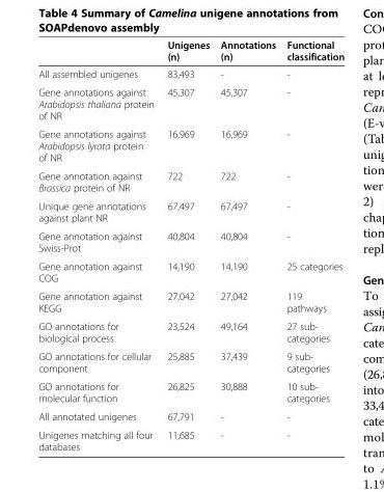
<table><thead><tr><td></td><td>Unigenes (n)</td><td>Annotations (n)</td><td>Functional classification</td></tr></thead><tbody><tr><td>All assembled unigenes</td><td>83,493</td><td>-</td><td>-</td></tr><tr><td>Gene annotations against Arabidopsis thaliana protein of NR</td><td>45,307</td><td>45,307</td><td>-</td></tr><tr><td>Gene annotations against Arabidopsis lyrata protein of NR</td><td>16,969</td><td>16,969</td><td>-</td></tr><tr><td>Gene annotation against Brassica protein of NR</td><td>722</td><td>722</td><td>-</td></tr><tr><td>Unique gene annotations against plant NR</td><td>67,497</td><td>67,497</td><td>-</td></tr><tr><td>Gene annotation against Swiss-Prot</td><td>40,804</td><td>40,804</td><td>-</td></tr><tr><td>Gene annotation against COG</td><td>14,190</td><td>14,190</td><td>25 categories</td></tr><tr><td>Gene annotation against KEGG</td><td>27,042</td><td>27,042</td><td>119 pathways</td></tr><tr><td>GO annotations for biological process</td><td>23,524</td><td>49,164</td><td>27 sub- categories</td></tr><tr><td>GO annotations for cellular component</td><td>25,885</td><td>37,439</td><td>9 sub- categories</td></tr><tr><td>GO annotations for molecular function</td><td>26,825</td><td>30,888</td><td>10 sub- categories</td></tr><tr><td>All annotated unigenes</td><td>67,791</td><td>-</td><td>-</td></tr><tr><td>Unigenes matching all four databases</td><td>11,685</td><td>-</td><td>-</td></tr></tbody></table>